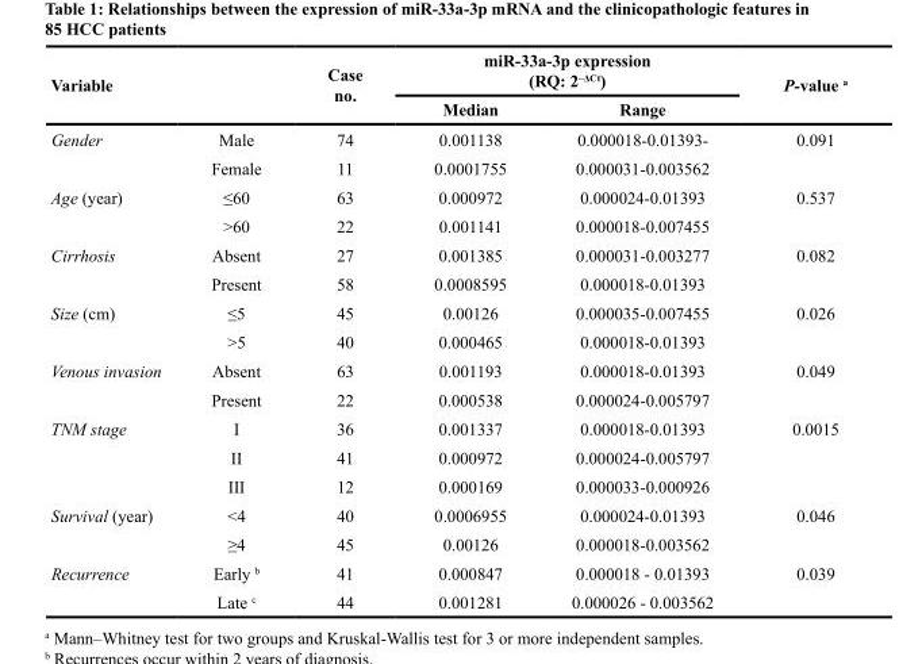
<table><thead><tr><td rowspan="2">Variable</td><td rowspan="2"></td><td rowspan="2">Case no.</td><td colspan="2">miR-33a-3p expression (RQ: 2<sup>–ΔCt</sup>)</td><td rowspan="2">P-value <sup>a</sup></td></tr><tr><td>Median</td><td>Range</td></tr></thead><tbody><tr><td rowspan="2">Gender</td><td>Male</td><td>74</td><td>0.001138</td><td>0.000018-0.01393-</td><td>0.091</td></tr><tr><td>Female</td><td>11</td><td>0.0001755</td><td>0.000031-0.003562</td><td></td></tr><tr><td rowspan="2">Age (year)</td><td>≤60</td><td>63</td><td>0.000972</td><td>0.000024-0.01393</td><td>0.537</td></tr><tr><td>&gt;60</td><td>22</td><td>0.001141</td><td>0.000018-0.007455</td><td></td></tr><tr><td rowspan="2">Cirrhosis</td><td>Absent</td><td>27</td><td>0.001385</td><td>0.000031-0.003277</td><td>0.082</td></tr><tr><td>Present</td><td>58</td><td>0.0008595</td><td>0.000018-0.01393</td><td></td></tr><tr><td rowspan="2">Size (cm)</td><td>≤5</td><td>45</td><td>0.00126</td><td>0.000035-0.007455</td><td>0.026</td></tr><tr><td>&gt;5</td><td>40</td><td>0.000465</td><td>0.000018-0.01393</td><td></td></tr><tr><td rowspan="2">Venous invasion</td><td>Absent</td><td>63</td><td>0.001193</td><td>0.000018-0.01393</td><td>0.049</td></tr><tr><td>Present</td><td>22</td><td>0.000538</td><td>0.000024-0.005797</td><td></td></tr><tr><td rowspan="3">TNM stage</td><td>I</td><td>36</td><td>0.001337</td><td>0.000018-0.01393</td><td>0.0015</td></tr><tr><td>II</td><td>41</td><td>0.000972</td><td>0.000024-0.005797</td><td></td></tr><tr><td>III</td><td>12</td><td>0.000169</td><td>0.000033-0.000926</td><td></td></tr><tr><td rowspan="2">Survival (year)</td><td>&lt;4</td><td>40</td><td>0.0006955</td><td>0.000024-0.01393</td><td>0.046</td></tr><tr><td>≥4</td><td>45</td><td>0.00126</td><td>0.000018-0.003562</td><td></td></tr><tr><td rowspan="2">Recurrence</td><td>Early <sup>b</sup></td><td>41</td><td>0.000847</td><td>0.000018 - 0.01393</td><td>0.039</td></tr><tr><td>Late <sup>c</sup></td><td>44</td><td>0.001281</td><td>0.000026 - 0.003562</td><td></td></tr></tbody></table>